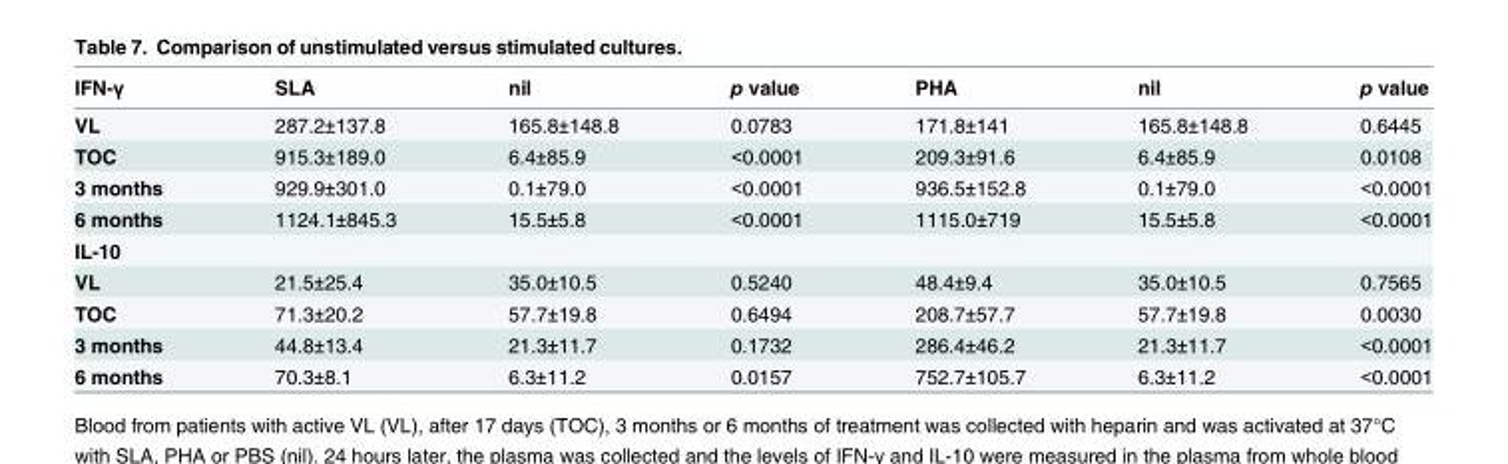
<table><thead><tr><td>IFN-γ</td><td>SLA</td><td>nil</td><td>p value</td><td>PHA</td><td>nil</td><td>p value</td></tr></thead><tbody><tr><td>VL</td><td>287.2±137.8</td><td>165.8±148.8</td><td>0.0783</td><td>171.8±141</td><td>165.8±148.8</td><td>0.6445</td></tr><tr><td>TOC</td><td>915.3±189.0</td><td>6.4±85.9</td><td>&lt;0.0001</td><td>209.3±91.6</td><td>6.4±85.9</td><td>0.0108</td></tr><tr><td>3 months</td><td>929.9±301.0</td><td>0.1±79.0</td><td>&lt;0.0001</td><td>936.5±152.8</td><td>0.1±79.0</td><td>&lt;0.0001</td></tr><tr><td>6 months</td><td>1124.1±845.3</td><td>15.5±5.8</td><td>&lt;0.0001</td><td>1115.0±719</td><td>15.5±5.8</td><td>&lt;0.0001</td></tr><tr><td colspan="7">IL-10</td></tr><tr><td>VL</td><td>21.5±25.4</td><td>35.0±10.5</td><td>0.5240</td><td>48.4±9.4</td><td>35.0±10.5</td><td>0.7565</td></tr><tr><td>TOC</td><td>71.3±20.2</td><td>57.7±19.8</td><td>0.6494</td><td>208.7±57.7</td><td>57.7±19.8</td><td>0.0030</td></tr><tr><td>3 months</td><td>44.8±13.4</td><td>21.3±11.7</td><td>0.1732</td><td>286.4±46.2</td><td>21.3±11.7</td><td>&lt;0.0001</td></tr><tr><td>6 months</td><td>70.3±8.1</td><td>6.3±11.2</td><td>0.0157</td><td>752.7±105.7</td><td>6.3±11.2</td><td>&lt;0.0001</td></tr></tbody></table>